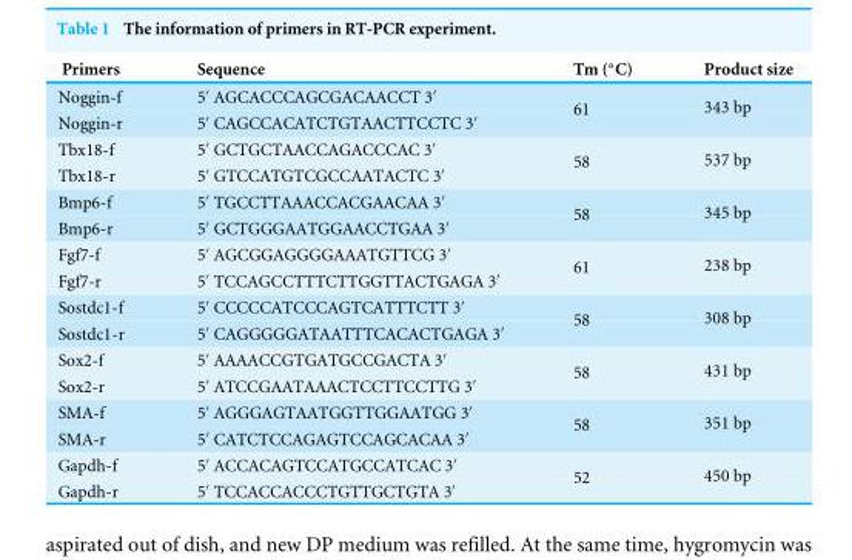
<table><thead><tr><td>Primers</td><td>Sequence</td><td>Tm (◦C)</td><td>Product size</td></tr></thead><tbody><tr><td>Noggin-f</td><td>5′ AGCACCCAGCGACAACCT 3′</td><td rowspan="2">61</td><td rowspan="2">343 bp</td></tr><tr><td>Noggin-r</td><td>5′ CAGCCACATCTGTAACTTCCTC 3′</td></tr><tr><td>Tbx18-f</td><td>5′ GCTGCTAACCAGACCCAC 3′</td><td rowspan="2">58</td><td rowspan="2">537 bp</td></tr><tr><td>Tbx18-r</td><td>5′ GTCCATGTCGCCAATACTC 3′</td></tr><tr><td>Bmp6-f</td><td>5′ TGCCTTAAACCACGAACAA 3′</td><td rowspan="2">58</td><td rowspan="2">345 bp</td></tr><tr><td>Bmp6-r</td><td>5′ GCTGGGAATGGAACCTGAA 3′</td></tr><tr><td>Fgf7-f</td><td>5′ AGCGGAGGGGAAATGTTCG 3′</td><td rowspan="2">61</td><td rowspan="2">238 bp</td></tr><tr><td>Fgf7-r</td><td>5′ TCCAGCCTTTCTTGGTTACTGAGA 3′</td></tr><tr><td>Sostdc1-f</td><td>5′ CCCCCATCCCAGTCATTTCTT 3′</td><td rowspan="2">58</td><td rowspan="2">308 bp</td></tr><tr><td>Sostdc1-r</td><td>5′ CAGGGGGATAATTTCACACTGAGA 3′</td></tr><tr><td>Sox2-f</td><td>5′ AAAACCGTGATGCCGACTA 3′</td><td rowspan="2">58</td><td rowspan="2">431 bp</td></tr><tr><td>Sox2-r</td><td>5′ ATCCGAATAAACTCCTTCCTTG 3′</td></tr><tr><td>SMA-f</td><td>5′ AGGGAGTAATGGTTGGAATGG 3′</td><td rowspan="2">58</td><td rowspan="2">351 bp</td></tr><tr><td>SMA-r</td><td>5′ CATCTCCAGAGTCCAGCACAA 3′</td></tr><tr><td>Gapdh-f</td><td>5′ ACCACAGTCCATGCCATCAC 3′</td><td rowspan="2">52</td><td rowspan="2">450 bp</td></tr><tr><td>Gapdh-r</td><td>5′ TCCACCACCCTGTTGCTGTA 3′</td></tr></tbody></table>